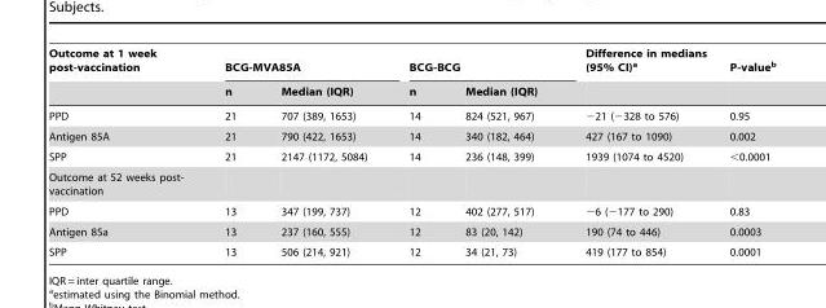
<table><thead><tr><td rowspan="2">Outcome at 1 week post-vaccination</td><td colspan="2">BCG-MVA85A</td><td colspan="2">BCG-BCG</td><td rowspan="2">Difference in medians (95% CI)<sup>a</sup></td><td rowspan="2">P-value<sup>b</sup></td></tr><tr><td>n</td><td>Median (IQR)</td><td>n</td><td>Median (IQR)</td></tr></thead><tbody><tr><td>PPD</td><td>21</td><td>707 (389, 1653)</td><td>14</td><td>824 (521, 967)</td><td>−21 (−328 to 576)</td><td>0.95</td></tr><tr><td>Antigen 85A</td><td>21</td><td>790 (422, 1653)</td><td>14</td><td>340 (182, 464)</td><td>427 (167 to 1090)</td><td>0.002</td></tr><tr><td>SPP</td><td>21</td><td>2147 (1172, 5084)</td><td>14</td><td>236 (148, 399)</td><td>1939 (1074 to 4520)</td><td>&lt;0.0001</td></tr><tr><td colspan="7">Outcome at 52 weeks post- vaccination</td></tr><tr><td>PPD</td><td>13</td><td>347 (199, 737)</td><td>12</td><td>402 (277, 517)</td><td>−6 (−177 to 290)</td><td>0.83</td></tr><tr><td>Antigen 85a</td><td>13</td><td>237 (160, 555)</td><td>12</td><td>83 (20, 142)</td><td>190 (74 to 446)</td><td>0.0003</td></tr><tr><td>SPP</td><td>13</td><td>506 (214, 921)</td><td>12</td><td>34 (21, 73)</td><td>419 (177 to 854)</td><td>0.0001</td></tr></tbody></table>